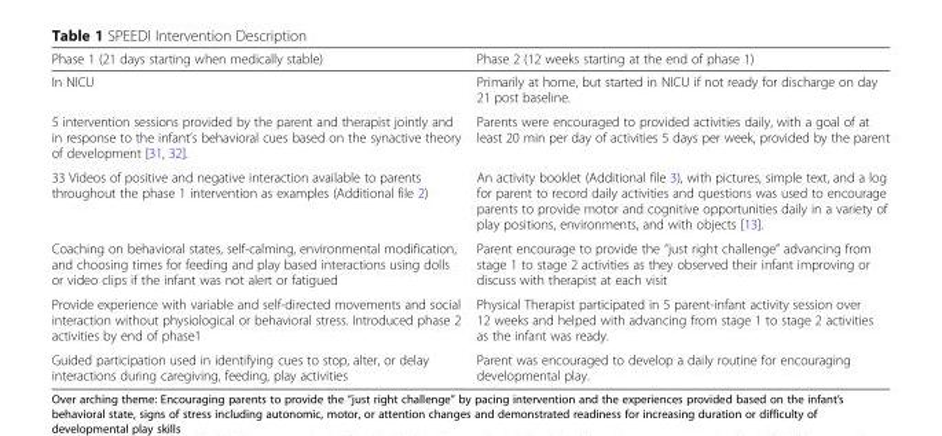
<table><thead><tr><td>Phase 1 (21 days starting when medically stable)</td><td>Phase 2 (12 weeks starting at the end of phase 1)</td></tr></thead><tbody><tr><td>In NICU</td><td>Primarily at home, but started in NICU if not ready for discharge on day 21 post baseline.</td></tr><tr><td>5 intervention sessions provided by the parent and therapist jointly and in response to the infant’s behavioral cues based on the synactive theory of development [31, 32].</td><td>Parents were encouraged to provided activities daily, with a goal of at least 20 min per day of activities 5 days per week, provided by the parent</td></tr><tr><td>33 Videos of positive and negative interaction available to parents throughout the phase 1 intervention as examples (Additional file 2)</td><td>An activity booklet (Additional file 3), with pictures, simple text, and a log for parent to record daily activities and questions was used to encourage parents to provide motor and cognitive opportunities daily in a variety of play positions, environments, and with objects [13].</td></tr><tr><td>Coaching on behavioral states, self-calming, environmental modification, and choosing times for feeding and play based interactions using dolls or video clips if the infant was not alert or fatigued</td><td>Parent encourage to provide the “just right challenge” advancing from stage 1 to stage 2 activities as they observed their infant improving or discuss with therapist at each visit</td></tr><tr><td>Provide experience with variable and self-directed movements and social interaction without physiological or behavioral stress. Introduced phase 2 activities by end of phase1</td><td>Physical Therapist participated in 5 parent-infant activity session over 12 weeks and helped with advancing from stage 1 to stage 2 activities as the infant was ready.</td></tr><tr><td>Guided participation used in identifying cues to stop, alter, or delay interactions during caregiving, feeding, play activities</td><td>Parent was encouraged to develop a daily routine for encouraging developmental play.</td></tr></tbody></table>